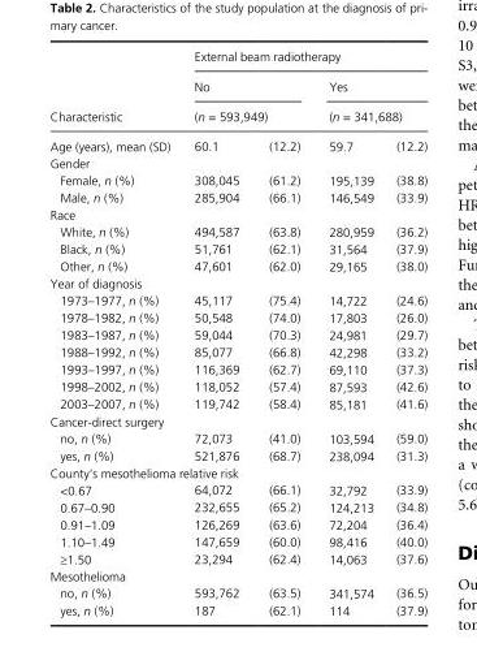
<table><thead><tr><td rowspan="4">Characteristic Age (years), mean (SD)</td><td colspan="4">External beam radiotherapy</td></tr><tr><td rowspan="2" colspan="2">No (n = 593,949)</td><td rowspan="2" colspan="2">Yes (n = 341,688)</td></tr><tr></tr><tr><td>60.1</td><td>(12.2)</td><td>59.7</td><td>(12.2)</td></tr></thead><tbody><tr><td colspan="5">Gender</td></tr><tr><td>Female, n (%)</td><td>308,045</td><td>(61.2)</td><td>195,139</td><td>(38.8)</td></tr><tr><td>Male, n (%)</td><td>285,904</td><td>(66.1)</td><td>146,549</td><td>(33.9)</td></tr><tr><td colspan="5">Race</td></tr><tr><td>White, n (%)</td><td>494,587</td><td>(63.8)</td><td>280,959</td><td>(36.2)</td></tr><tr><td>Black, n (%)</td><td>51,761</td><td>(62.1)</td><td>31,564</td><td>(37.9)</td></tr><tr><td>Other, n (%)</td><td>47,601</td><td>(62.0)</td><td>29,165</td><td>(38.0)</td></tr><tr><td colspan="5">Year of diagnosis</td></tr><tr><td>1973–1977, n (%)</td><td>45,117</td><td>(75.4)</td><td>14,722</td><td>(24.6)</td></tr><tr><td>1978–1982, n (%)</td><td>50,548</td><td>(74.0)</td><td>17,803</td><td>(26.0)</td></tr><tr><td>1983–1987, n (%)</td><td>59,044</td><td>(70.3)</td><td>24,981</td><td>(29.7)</td></tr><tr><td>1988–1992, n (%)</td><td>85,077</td><td>(66.8)</td><td>42,298</td><td>(33.2)</td></tr><tr><td>1993–1997, n (%)</td><td>116,369</td><td>(62.7)</td><td>69,110</td><td>(37.3)</td></tr><tr><td>1998–2002, n (%)</td><td>118,052</td><td>(57.4)</td><td>87,593</td><td>(42.6)</td></tr><tr><td>2003–2007, n (%)</td><td>119,742</td><td>(58.4)</td><td>85,181</td><td>(41.6)</td></tr><tr><td colspan="5">Cancer- direct surgery</td></tr><tr><td>no, n (%)</td><td>72,073</td><td>(41.0)</td><td>103,594</td><td>(59.0)</td></tr><tr><td>yes, n (%)</td><td>521,876</td><td>(68.7)</td><td>238,094</td><td>(31.3)</td></tr><tr><td colspan="5">County’s mesothelioma relative risk</td></tr><tr><td>&lt;0.67</td><td>64,072</td><td>(66.1)</td><td>32,792</td><td>(33.9)</td></tr><tr><td>0.67–0.90</td><td>232,655</td><td>(65.2)</td><td>124,213</td><td>(34.8)</td></tr><tr><td>0.91–1.09</td><td>126,269</td><td>(63.6)</td><td>72,204</td><td>(36.4)</td></tr><tr><td>1.10–1.49</td><td>147,659</td><td>(60.0)</td><td>98,416</td><td>(40.0)</td></tr><tr><td>≥1.50</td><td>23,294</td><td>(62.4)</td><td>14,063</td><td>(37.6)</td></tr><tr><td colspan="5">Mesothelioma</td></tr><tr><td>no, n (%)</td><td>593,762</td><td>(63.5)</td><td>341,574</td><td>(36.5)</td></tr><tr><td>yes, n (%)</td><td>187</td><td>(62.1)</td><td>114</td><td>(37.9)</td></tr></tbody></table>